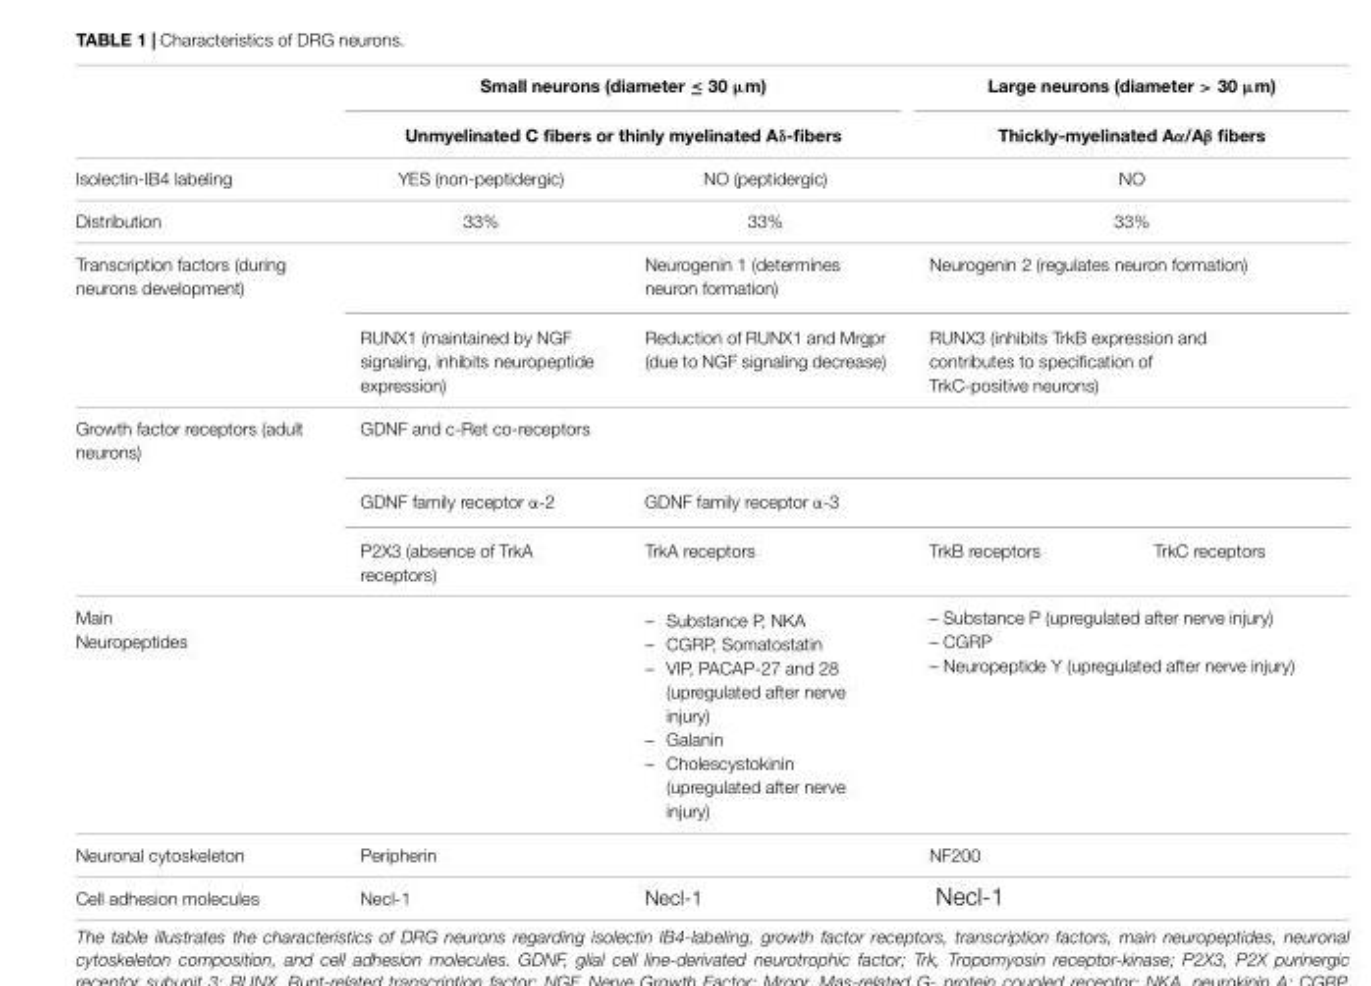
<table><thead><tr><td rowspan="2"></td><td rowspan="2" colspan="2">Small neurons (diameter ≤ 30 µm) Unmyelinated C fibers or thinly myelinated Aδ-fibers</td><td rowspan="2" colspan="2">Large neurons (diameter &gt; 30 µm) Thickly-myelinated Aα/Aβ fibers</td></tr><tr></tr></thead><tbody><tr><td>Isolectin-IB4 labeling</td><td>YES (non-peptidergic)</td><td>NO (peptidergic)</td><td colspan="2">NO</td></tr><tr><td>Distribution</td><td>33%</td><td>33%</td><td colspan="2">33%</td></tr><tr><td rowspan="2">Transcription factors (during neurons development)</td><td></td><td>Neurogenin 1 (determines neuron formation)</td><td colspan="2">Neurogenin 2 (regulates neuron formation)</td></tr><tr><td>RUNX1 (maintained by NGF signaling, inhibits neuropeptide expression)</td><td>Reduction of RUNX1 and Mrgpr (due to NGF signaling decrease)</td><td colspan="2">RUNX3 (inhibits TrkB expression and contributes to specification of TrkC-positive neurons)</td></tr><tr><td rowspan="3">Growth factor receptors (adult neurons)</td><td>GDNF and c-Ret co-receptors</td><td></td><td></td><td></td></tr><tr><td>GDNF family receptor α-2</td><td>GDNF family receptor α-3</td><td></td><td></td></tr><tr><td>P2X3 (absence of TrkA receptors)</td><td>TrkA receptors</td><td>TrkB receptors</td><td>TrkC receptors</td></tr><tr><td>Main Neuropeptides</td><td></td><td>– Substance P, NKA – CGRP, Somatostatin – VIP, PACAP-27 and 28 (upregulated after nerve injury) – Galanin – Cholescystokinin (upregulated after nerve injury)</td><td colspan="2">– Substance P (upregulated after nerve injury) – CGRP – Neuropeptide Y (upregulated after nerve injury)</td></tr><tr><td>Neuronal cytoskeleton</td><td colspan="2">Peripherin</td><td colspan="2">NF200</td></tr><tr><td>Cell adhesion molecules</td><td>Necl-1</td><td>Necl-1</td><td>Necl-1</td><td></td></tr></tbody></table>